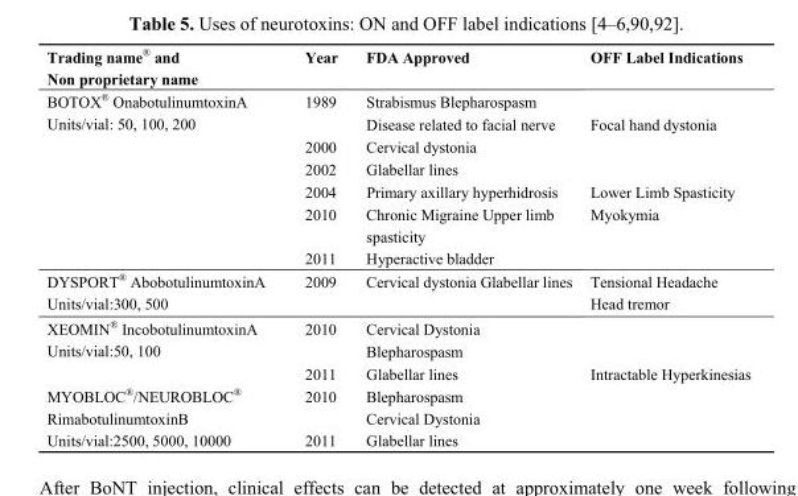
<table><thead><tr><td>Trading name<sup>®</sup> and Non proprietary name</td><td>Year</td><td>FDA Approved</td><td>OFF Label Indications</td></tr></thead><tbody><tr><td rowspan="7">BOTOX<sup>®</sup> OnabotulinumtoxinA Units/vial: 50, 100, 200</td><td rowspan="2">1989</td><td>Strabismus Blepharospasm</td><td></td></tr><tr><td>Disease related to facial nerve</td><td>Focal hand dystonia</td></tr><tr><td>2000</td><td>Cervical dystonia</td><td></td></tr><tr><td>2002</td><td>Glabellar lines</td><td></td></tr><tr><td>2004</td><td>Primary axillary hyperhidrosis</td><td>Lower Limb Spasticity</td></tr><tr><td>2010</td><td>Chronic Migraine Upper limb spasticity</td><td>Myokymia</td></tr><tr><td>2011</td><td>Hyperactive bladder</td><td></td></tr><tr><td rowspan="2">DYSPORT<sup>®</sup> AbobotulinumtoxinA Units/vial:300, 500</td><td rowspan="2">2009</td><td rowspan="2">Cervical dystonia Glabellar lines</td><td>Tensional Headache</td></tr><tr><td>Head tremor</td></tr><tr><td rowspan="3">XEOMIN<sup>®</sup> IncobotulinumtoxinA Units/vial:50, 100</td><td rowspan="2">2010</td><td>Cervical Dystonia</td><td></td></tr><tr><td>Blepharospasm</td><td></td></tr><tr><td>2011</td><td>Glabellar lines</td><td>Intractable Hyperkinesias</td></tr><tr><td rowspan="3">MYOBLOC<sup>®</sup>/NEUROBLOC<sup>®</sup> RimabotulinumtoxinB Units/vial:2500, 5000, 10000</td><td rowspan="2">2010</td><td>Blepharospasm</td><td rowspan="2"></td></tr><tr><td>Cervical Dystonia</td></tr><tr><td>2011</td><td>Glabellar lines</td><td></td></tr></tbody></table>